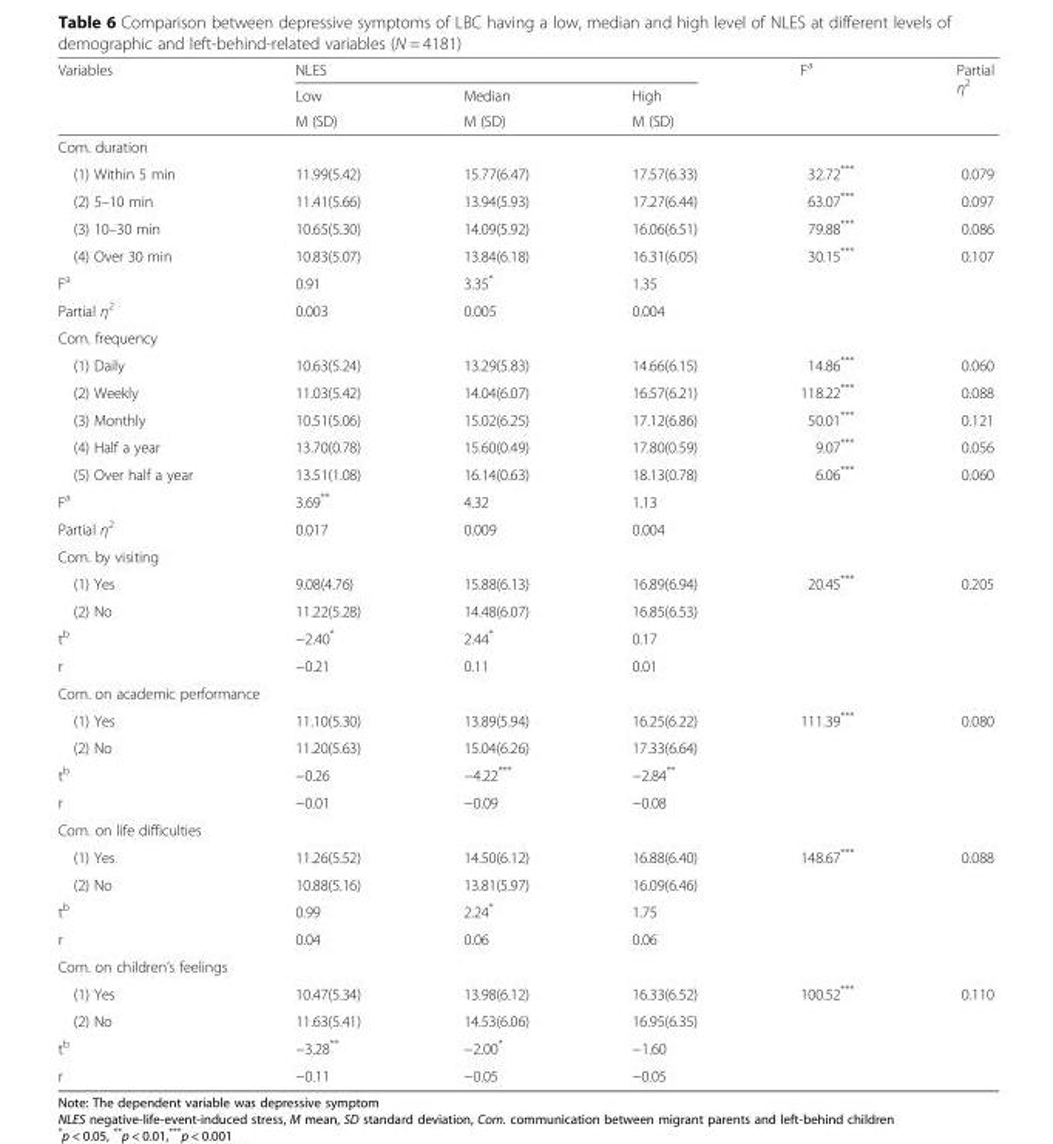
<table><thead><tr><td rowspan="3">Variables</td><td colspan="3">NLES</td><td rowspan="3">F<sup>a</sup></td><td rowspan="3">Partial η<sup>2</sup></td></tr><tr><td rowspan="2">Low M (SD)</td><td rowspan="2">Median M (SD)</td><td rowspan="2">High M (SD)</td></tr><tr></tr></thead><tbody><tr><td colspan="6">Com. duration</td></tr><tr><td>(1) Within 5 min</td><td>11.99(5.42)</td><td>15.77(6.47)</td><td>17.57(6.33)</td><td>32.72***</td><td>0.079</td></tr><tr><td>(2) 5–10 min</td><td>11.41(5.66)</td><td>13.94(5.93)</td><td>17.27(6.44)</td><td>63.07***</td><td>0.097</td></tr><tr><td>(3) 10–30 min</td><td>10.65(5.30)</td><td>14.09(5.92)</td><td>16.06(6.51)</td><td>79.88***</td><td>0.086</td></tr><tr><td>(4) Over 30 min</td><td>10.83(5.07)</td><td>13.84(6.18)</td><td>16.31(6.05)</td><td>30.15***</td><td>0.107</td></tr><tr><td>F<sup>a</sup></td><td>0.91</td><td>3.35*</td><td>1.35</td><td></td><td></td></tr><tr><td>Partial η<sup>2</sup></td><td>0.003</td><td>0.005</td><td>0.004</td><td></td><td></td></tr><tr><td colspan="6">Com. frequency</td></tr><tr><td>(1) Daily</td><td>10.63(5.24)</td><td>13.29(5.83)</td><td>14.66(6.15)</td><td>14.86***</td><td>0.060</td></tr><tr><td>(2) Weekly</td><td>11.03(5.42)</td><td>14.04(6.07)</td><td>16.57(6.21)</td><td>118.22***</td><td>0.088</td></tr><tr><td>(3) Monthly</td><td>10.51(5.06)</td><td>15.02(6.25)</td><td>17.12(6.86)</td><td>50.01***</td><td>0.121</td></tr><tr><td>(4) Half a year</td><td>13.70(0.78)</td><td>15.60(0.49)</td><td>17.80(0.59)</td><td>9.07***</td><td>0.056</td></tr><tr><td>(5) Over half a year</td><td>13.51(1.08)</td><td>16.14(0.63)</td><td>18.13(0.78)</td><td>6.06***</td><td>0.060</td></tr><tr><td>F<sup>a</sup></td><td>3.69**</td><td>4.32</td><td>1.13</td><td></td><td></td></tr><tr><td>Partial η<sup>2</sup></td><td>0.017</td><td>0.009</td><td>0.004</td><td></td><td></td></tr><tr><td colspan="6">Com. by visiting</td></tr><tr><td>(1) Yes</td><td>9.08(4.76)</td><td>15.88(6.13)</td><td>16.89(6.94)</td><td>20.45***</td><td>0.205</td></tr><tr><td>(2) No</td><td>11.22(5.28)</td><td>14.48(6.07)</td><td>16.85(6.53)</td><td></td><td></td></tr><tr><td>t<sup>b</sup></td><td>−2.40*</td><td>2.44*</td><td>0.17</td><td></td><td></td></tr><tr><td>r</td><td>−0.21</td><td>0.11</td><td>0.01</td><td></td><td></td></tr><tr><td colspan="6">Com. on academic performance</td></tr><tr><td>(1) Yes</td><td>11.10(5.30)</td><td>13.89(5.94)</td><td>16.25(6.22)</td><td>111.39***</td><td>0.080</td></tr><tr><td>(2) No</td><td>11.20(5.63)</td><td>15.04(6.26)</td><td>17.33(6.64)</td><td></td><td></td></tr><tr><td>t<sup>b</sup></td><td>−0.26</td><td>−4.22***</td><td>−2.84**</td><td></td><td></td></tr><tr><td>r</td><td>−0.01</td><td>−0.09</td><td>−0.08</td><td></td><td></td></tr><tr><td colspan="6">Com. on life difficulties</td></tr><tr><td>(1) Yes</td><td>11.26(5.52)</td><td>14.50(6.12)</td><td>16.88(6.40)</td><td>148.67***</td><td>0.088</td></tr><tr><td>(2) No</td><td>10.88(5.16)</td><td>13.81(5.97)</td><td>16.09(6.46)</td><td></td><td></td></tr><tr><td>t<sup>b</sup></td><td>0.99</td><td>2.24*</td><td>1.75</td><td></td><td></td></tr><tr><td>r</td><td>0.04</td><td>0.06</td><td>0.06</td><td></td><td></td></tr><tr><td colspan="6">Com. on children’s feelings</td></tr><tr><td>(1) Yes</td><td>10.47(5.34)</td><td>13.98(6.12)</td><td>16.33(6.52)</td><td>100.52***</td><td>0.110</td></tr><tr><td>(2) No</td><td>11.63(5.41)</td><td>14.53(6.06)</td><td>16.95(6.35)</td><td></td><td></td></tr><tr><td>t<sup>b</sup></td><td>−3.28**</td><td>−2.00*</td><td>−1.60</td><td></td><td></td></tr><tr><td>r</td><td>−0.11</td><td>−0.05</td><td>−0.05</td><td></td><td></td></tr></tbody></table>